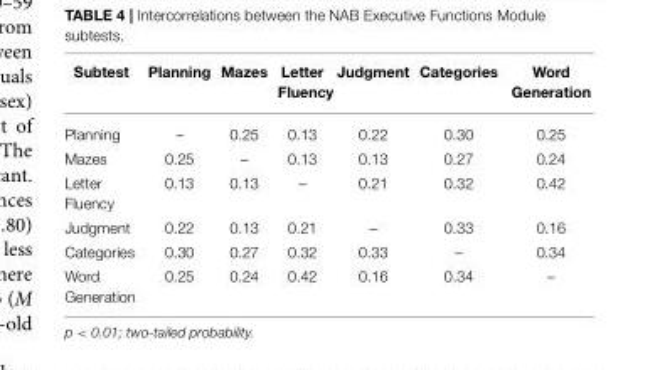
<table><thead><tr><td>Subtest</td><td>Planning</td><td>Mazes</td><td>Letter Fluency</td><td>Judgment</td><td>Categories</td><td>Word Generation</td></tr></thead><tbody><tr><td>Planning</td><td>–</td><td>0.25</td><td>0.13</td><td>0.22</td><td>0.30</td><td>0.25</td></tr><tr><td>Mazes</td><td>0.25</td><td>–</td><td>0.13</td><td>0.13</td><td>0.27</td><td>0.24</td></tr><tr><td>Letter Fluency</td><td>0.13</td><td>0.13</td><td>–</td><td>0.21</td><td>0.32</td><td>0.42</td></tr><tr><td>Judgment</td><td>0.22</td><td>0.13</td><td>0.21</td><td>–</td><td>0.33</td><td>0.16</td></tr><tr><td>Categories</td><td>0.30</td><td>0.27</td><td>0.32</td><td>0.33</td><td>–</td><td>0.34</td></tr><tr><td>Word Generation</td><td>0.25</td><td>0.24</td><td>0.42</td><td>0.16</td><td>0.34</td><td>–</td></tr></tbody></table>